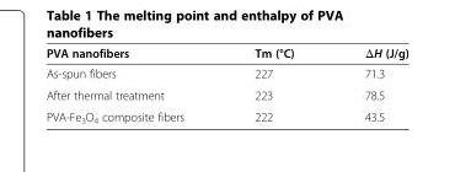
<table><thead><tr><td>PVA nanofibers</td><td>Tm (°C)</td><td>ΔH (J/g)</td></tr></thead><tbody><tr><td>As-spun fibers</td><td>227</td><td>71.3</td></tr><tr><td>After thermal treatment</td><td>223</td><td>78.5</td></tr><tr><td>PVA-Fe<sub>3</sub>O<sub>4</sub> composite fibers</td><td>222</td><td>43.5</td></tr></tbody></table>